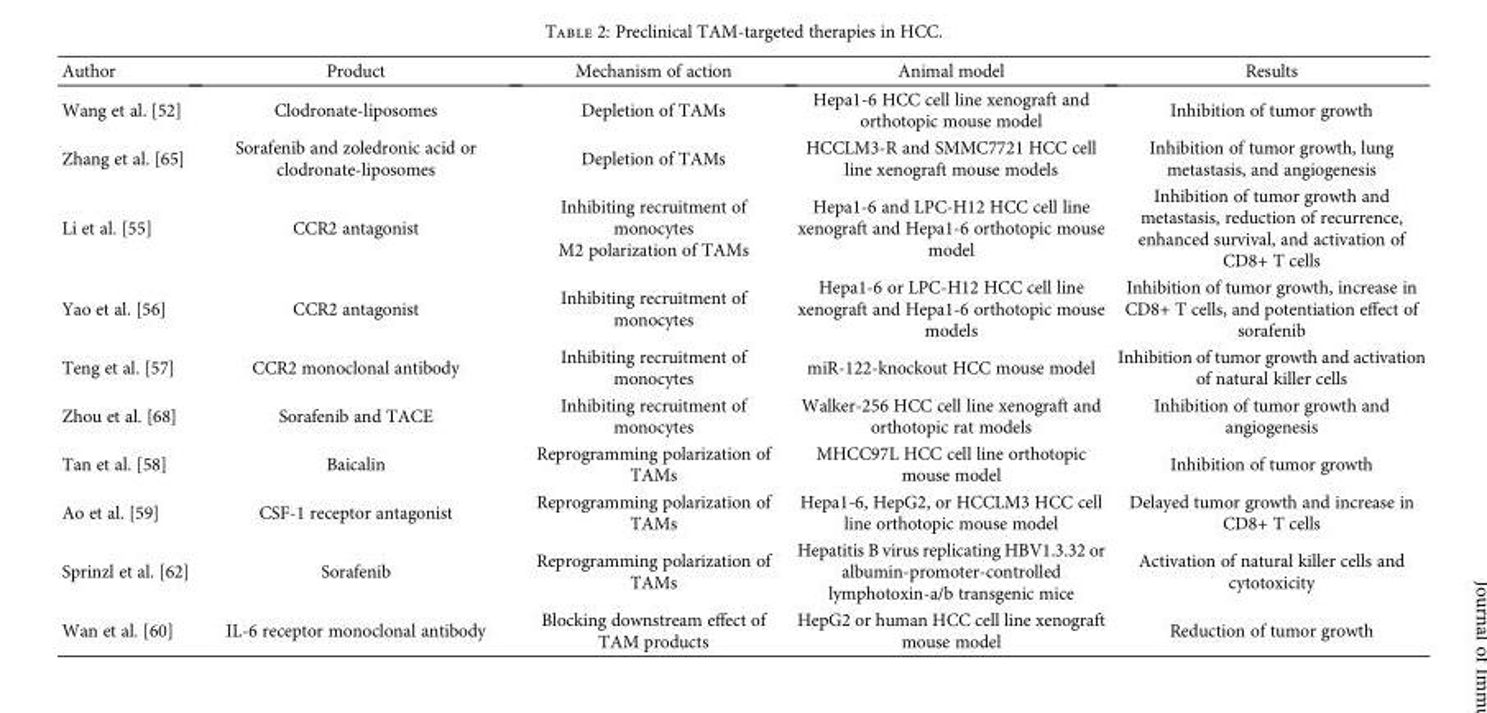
<table><thead><tr><td>Author</td><td>Product</td><td>Mechanism of action</td><td>Animal model</td><td>Results</td></tr></thead><tbody><tr><td>Wang et al. [52]</td><td>Clodronate-liposomes</td><td>Depletion of TAMs</td><td>Hepa1-6 HCC cell line xenograft and orthotopic mouse model</td><td>Inhibition of tumor growth</td></tr><tr><td>Zhang et al. [65]</td><td>Sorafenib and zoledronic acid or clodronate-liposomes</td><td>Depletion of TAMs</td><td>HCCLM3-R and SMMC7721 HCC cell line xenograft mouse models</td><td>Inhibition of tumor growth, lung metastasis, and angiogenesis</td></tr><tr><td>Li et al. [55]</td><td>CCR2 antagonist</td><td>Inhibiting recruitment of monocytes M2 polarization of TAMs</td><td>Hepa1-6 and LPC-H12 HCC cell line xenograft and Hepa1-6 orthotopic mouse model</td><td>Inhibition of tumor growth and metastasis, reduction of recurrence, enhanced survival, and activation of CD8+ T cells</td></tr><tr><td>Yao et al. [56]</td><td>CCR2 antagonist</td><td>Inhibiting recruitment of monocytes</td><td>Hepa1-6 or LPC-H12 HCC cell line xenograft and Hepa1-6 orthotopic mouse models</td><td>Inhibition of tumor growth, increase in CD8+ T cells, and potentiation effect of sorafenib</td></tr><tr><td>Teng et al. [57]</td><td>CCR2 monoclonal antibody</td><td>Inhibiting recruitment of monocytes</td><td>miR-122-knockout HCC mouse model</td><td>Inhibition of tumor growth and activation of natural killer cells</td></tr><tr><td>Zhou et al. [68]</td><td>Sorafenib and TACE</td><td>Inhibiting recruitment of monocytes</td><td>Walker-256 HCC cell line xenograft and orthotopic rat models</td><td>Inhibition of tumor growth and angiogenesis</td></tr><tr><td>Tan et al. [58]</td><td>Baicalin</td><td>Reprogramming polarization of TAMs</td><td>MHCC97L HCC cell line orthotopic mouse model</td><td>Inhibition of tumor growth</td></tr><tr><td>Ao et al. [59]</td><td>CSF-1 receptor antagonist</td><td>Reprogramming polarization of TAMs</td><td>Hepa1-6, HepG2, or HCCLM3 HCC cell line orthotopic mouse model</td><td>Delayed tumor growth and increase in CD8+ T cells</td></tr><tr><td>Sprinzl et al. [62]</td><td>Sorafenib</td><td>Reprogramming polarization of TAMs</td><td>Hepatitis B virus replicating HBV1.3.32 or albumin-promoter-controlled lymphotoxin-a/b transgenic mice</td><td>Activation of natural killer cells and cytotoxicity</td></tr><tr><td>Wan et al. [60]</td><td>IL-6 receptor monoclonal antibody</td><td>Blocking downstream effect of TAM products</td><td>HepG2 or human HCC cell line xenograft mouse model</td><td>Reduction of tumor growth</td></tr></tbody></table>